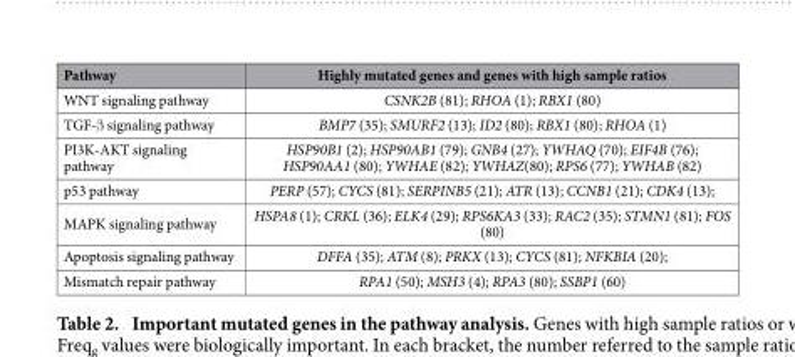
<table><thead><tr><td>Pathway</td><td>Highly mutated genes and genes with high sample ratios</td></tr></thead><tbody><tr><td>WNT signaling pathway</td><td>CSNK2B (81); RHOA (1); RBX1 (80)</td></tr><tr><td>TGF-β signaling pathway</td><td>BMP7 (35); SMURF2 (13); ID2 (80); RBX1 (80); RHOA (1)</td></tr><tr><td>PI3K-AKT signaling pathway</td><td>HSP90B1 (2); HSP90AB1 (79); GNB4 (27); YWHAQ (70); EIF4B (76); HSP90AA1 (80); YWHAE (82); YWHAZ(80); RPS6 (77); YWHAB (82)</td></tr><tr><td>p53 pathway</td><td>PERP (57); CYCS (81); SERPINB5 (21); ATR (13); CCNB1 (21); CDK4 (13);</td></tr><tr><td>MAPK signaling pathway</td><td>HSPA8 (1); CRKL (36); ELK4 (29); RPS6KA3 (33); RAC2 (35); STMN1 (81); FOS (80)</td></tr><tr><td>Apoptosis signaling pathway</td><td>DFFA (35); ATM (8); PRKX (13); CYCS (81); NFKBIA (20);</td></tr><tr><td>Mismatch repair pathway</td><td>RPA1 (50); MSH3 (4); RPA3 (80); SSBP1 (60)</td></tr></tbody></table>